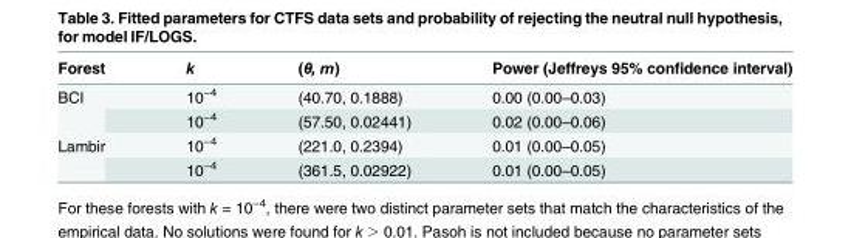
<table><thead><tr><td>Forest</td><td>k</td><td>(θ, m)</td><td>Power (Jeffreys 95% confidence interval)</td></tr></thead><tbody><tr><td rowspan="2">BCI</td><td>10<sup>−4</sup></td><td>(40.70, 0.1888)</td><td>0.00 (0.00–0.03)</td></tr><tr><td>10<sup>−4</sup></td><td>(57.50, 0.02441)</td><td>0.02 (0.00–0.06)</td></tr><tr><td rowspan="2">Lambir</td><td>10<sup>−4</sup></td><td>(221.0, 0.2394)</td><td>0.01 (0.00–0.05)</td></tr><tr><td>10<sup>−4</sup></td><td>(361.5, 0.02922)</td><td>0.01 (0.00–0.05)</td></tr></tbody></table>